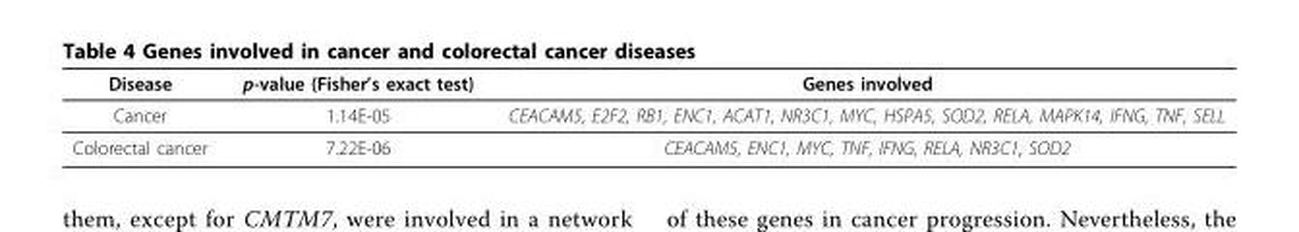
<table><thead><tr><td>Disease</td><td>p-value (Fisher’s exact test)</td><td>Genes involved</td></tr></thead><tbody><tr><td>Cancer</td><td>1.14E-05</td><td>CEACAM5, E2F2, RB1, ENC1, ACAT1, NR3C1, MYC, HSPA5, SOD2, RELA, MAPK14, IFNG, TNF, SELL</td></tr><tr><td>Colorectal cancer</td><td>7.22E-06</td><td>CEACAM5, ENC1, MYC, TNF, IFNG, RELA, NR3C1, SOD2</td></tr></tbody></table>